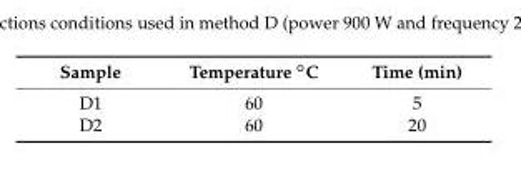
<table><thead><tr><td>Sample</td><td>Temperature ◦C</td><td>Time (min)</td></tr></thead><tbody><tr><td>D1</td><td>60</td><td>5</td></tr><tr><td>D2</td><td>60</td><td>20</td></tr></tbody></table>